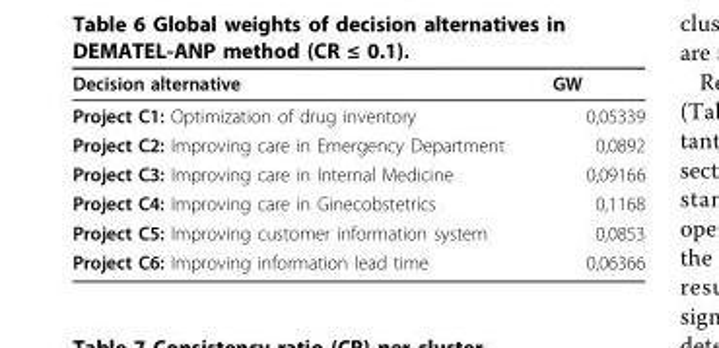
<table><thead><tr><td>Decision alternative</td><td>GW</td></tr></thead><tbody><tr><td>Project C1: Optimization of drug inventory</td><td>0,05339</td></tr><tr><td>Project C2: Improving care in Emergency Department</td><td>0,0892</td></tr><tr><td>Project C3: Improving care in Internal Medicine</td><td>0,09166</td></tr><tr><td>Project C4: Improving care in Ginecobstetrics</td><td>0,1168</td></tr><tr><td>Project C5: Improving customer information system</td><td>0,0853</td></tr><tr><td>Project C6: Improving information lead time</td><td>0,06366</td></tr></tbody></table>